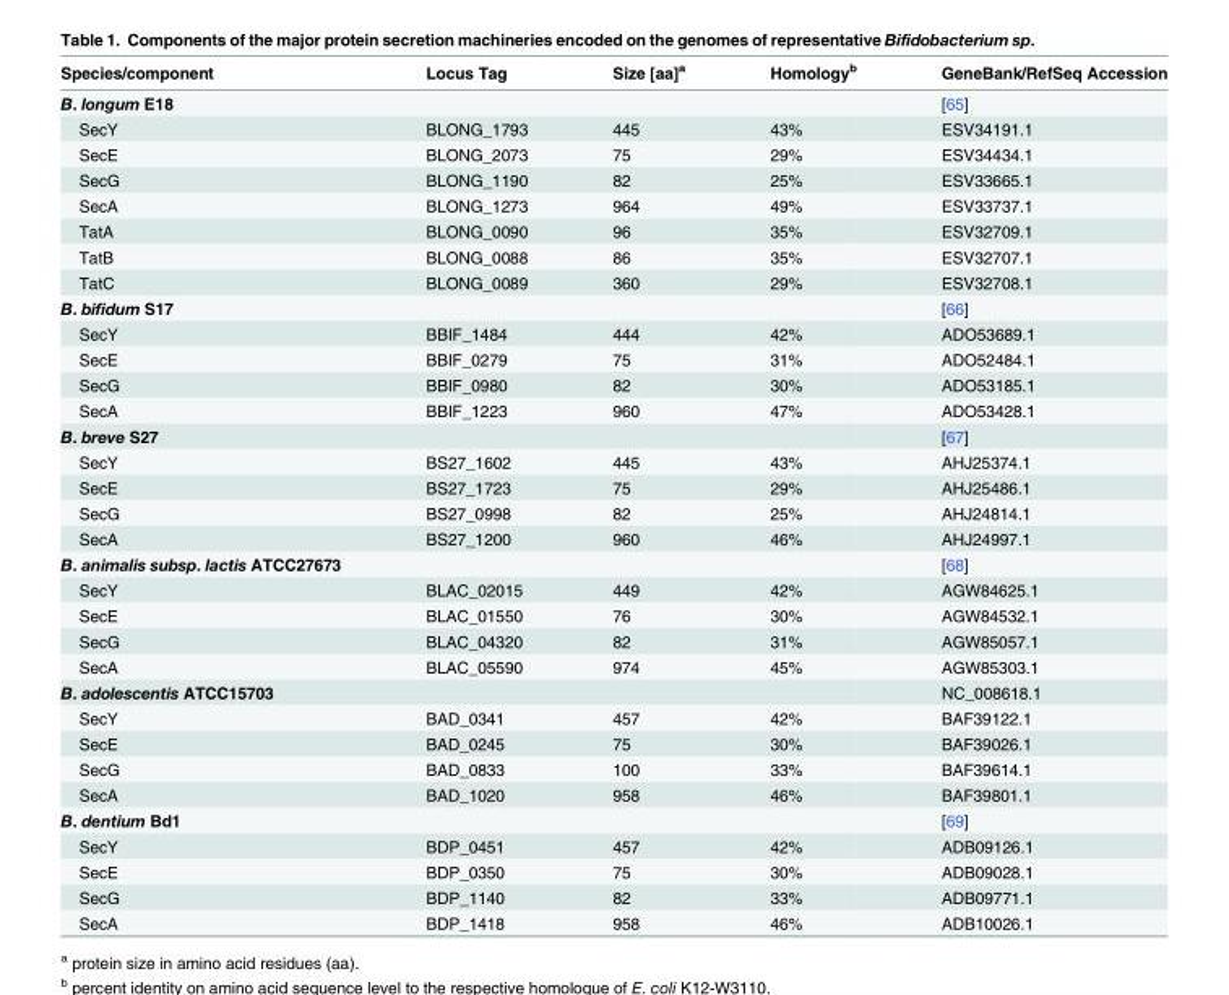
<table><thead><tr><td>Species/component</td><td>Locus Tag</td><td>Size [aa]<sup>a</sup></td><td>Homology<sup>b</sup></td><td>GeneBank/RefSeq Accession</td></tr></thead><tbody><tr><td>B. longum E18</td><td></td><td></td><td></td><td>[65]</td></tr><tr><td>SecY</td><td>BLONG_1793</td><td>445</td><td>43%</td><td>ESV34191.1</td></tr><tr><td>SecE</td><td>BLONG_2073</td><td>75</td><td>29%</td><td>ESV34434.1</td></tr><tr><td>SecG</td><td>BLONG_1190</td><td>82</td><td>25%</td><td>ESV33665.1</td></tr><tr><td>SecA</td><td>BLONG_1273</td><td>964</td><td>49%</td><td>ESV33737.1</td></tr><tr><td>TatA</td><td>BLONG_0090</td><td>96</td><td>35%</td><td>ESV32709.1</td></tr><tr><td>TatB</td><td>BLONG_0088</td><td>86</td><td>35%</td><td>ESV32707.1</td></tr><tr><td>TatC</td><td>BLONG_0089</td><td>360</td><td>29%</td><td>ESV32708.1</td></tr><tr><td>B. bifidum S17</td><td></td><td></td><td></td><td>[66]</td></tr><tr><td>SecY</td><td>BBIF_1484</td><td>444</td><td>42%</td><td>ADO53689.1</td></tr><tr><td>SecE</td><td>BBIF_0279</td><td>75</td><td>31%</td><td>ADO52484.1</td></tr><tr><td>SecG</td><td>BBIF_0980</td><td>82</td><td>30%</td><td>ADO53185.1</td></tr><tr><td>SecA</td><td>BBIF_1223</td><td>960</td><td>47%</td><td>ADO53428.1</td></tr><tr><td>B. breve S27</td><td></td><td></td><td></td><td>[67]</td></tr><tr><td>SecY</td><td>BS27_1602</td><td>445</td><td>43%</td><td>AHJ25374.1</td></tr><tr><td>SecE</td><td>BS27_1723</td><td>75</td><td>29%</td><td>AHJ25486.1</td></tr><tr><td>SecG</td><td>BS27_0998</td><td>82</td><td>25%</td><td>AHJ24814.1</td></tr><tr><td>SecA</td><td>BS27_1200</td><td>960</td><td>46%</td><td>AHJ24997.1</td></tr><tr><td>B. animalis subsp. lactis ATCC27673</td><td></td><td></td><td></td><td>[68]</td></tr><tr><td>SecY</td><td>BLAC_02015</td><td>449</td><td>42%</td><td>AGW84625.1</td></tr><tr><td>SecE</td><td>BLAC_01550</td><td>76</td><td>30%</td><td>AGW84532.1</td></tr><tr><td>SecG</td><td>BLAC_04320</td><td>82</td><td>31%</td><td>AGW85057.1</td></tr><tr><td>SecA</td><td>BLAC_05590</td><td>974</td><td>45%</td><td>AGW85303.1</td></tr><tr><td>B. adolescentis ATCC15703</td><td></td><td></td><td></td><td>NC_008618.1</td></tr><tr><td>SecY</td><td>BAD_0341</td><td>457</td><td>42%</td><td>BAF39122.1</td></tr><tr><td>SecE</td><td>BAD_0245</td><td>75</td><td>30%</td><td>BAF39026.1</td></tr><tr><td>SecG</td><td>BAD_0833</td><td>100</td><td>33%</td><td>BAF39614.1</td></tr><tr><td>SecA</td><td>BAD_1020</td><td>958</td><td>46%</td><td>BAF39801.1</td></tr><tr><td>B. dentium Bd1</td><td></td><td></td><td></td><td>[69]</td></tr><tr><td>SecY</td><td>BDP_0451</td><td>457</td><td>42%</td><td>ADB09126.1</td></tr><tr><td>SecE</td><td>BDP_0350</td><td>75</td><td>30%</td><td>ADB09028.1</td></tr><tr><td>SecG</td><td>BDP_1140</td><td>82</td><td>33%</td><td>ADB09771.1</td></tr><tr><td>SecA</td><td>BDP_1418</td><td>958</td><td>46%</td><td>ADB10026.1</td></tr></tbody></table>